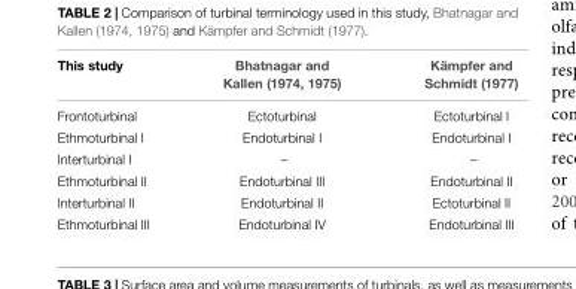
<table><thead><tr><td>This study</td><td>Bhatnagar and Kallen (1974, 1975)</td><td>Kämpfer and Schmidt (1977)</td></tr></thead><tbody><tr><td>Frontoturbinal</td><td>Ectoturbinal</td><td>Ectoturbinal I</td></tr><tr><td>Ethmoturbinal I</td><td>Endoturbinal I</td><td>Endoturbinal I</td></tr><tr><td>Interturbinal I</td><td>–</td><td>–</td></tr><tr><td>Ethmoturbinal II</td><td>Endoturbinal III</td><td>Endoturbinal II</td></tr><tr><td>Interturbinal II</td><td>Endoturbinal II</td><td>Ectoturbinal II</td></tr><tr><td>Ethmoturbinal III</td><td>Endoturbinal IV</td><td>Endoturbinal III</td></tr></tbody></table>